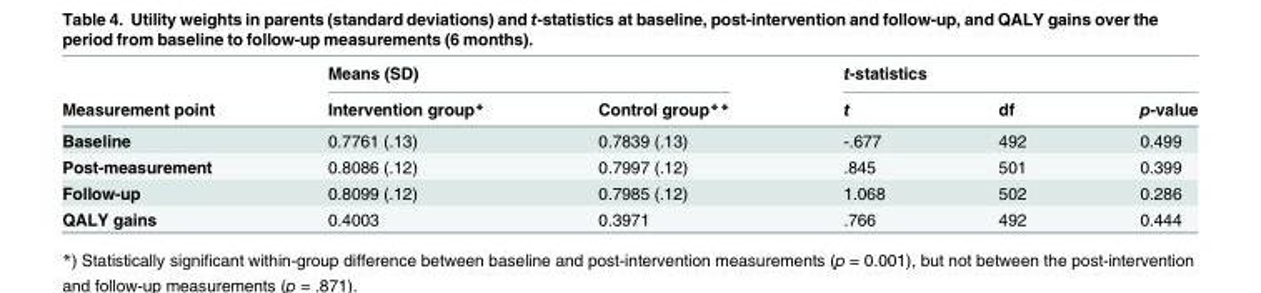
<table><thead><tr><td rowspan="2">Measurement point</td><td colspan="2">Means (SD)</td><td colspan="3">t-statistics</td></tr><tr><td>Intervention group*</td><td>Control group**</td><td>t</td><td>df</td><td>p-value</td></tr></thead><tbody><tr><td>Baseline</td><td>0.7761 (.13)</td><td>0.7839 (.13)</td><td>-.677</td><td>492</td><td>0.499</td></tr><tr><td>Post-measurement</td><td>0.8086 (.12)</td><td>0.7997 (.12)</td><td>.845</td><td>501</td><td>0.399</td></tr><tr><td>Follow-up</td><td>0.8099 (.12)</td><td>0.7985 (.12)</td><td>1.068</td><td>502</td><td>0.286</td></tr><tr><td>QALY gains</td><td>0.4003</td><td>0.3971</td><td>.766</td><td>492</td><td>0.444</td></tr></tbody></table>